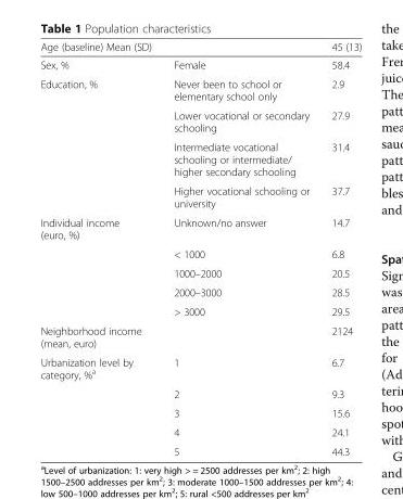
<table><thead><tr><td>Age (baseline) Mean (SD)</td><td></td><td>45 (13)</td></tr></thead><tbody><tr><td>Sex, %</td><td>Female</td><td>58.4</td></tr><tr><td rowspan="4">Education, %</td><td>Never been to school or elementary school only</td><td>2.9</td></tr><tr><td>Lower vocational or secondary schooling</td><td>27.9</td></tr><tr><td>Intermediate vocational schooling or intermediate/ higher secondary schooling</td><td>31.4</td></tr><tr><td>Higher vocational schooling or university</td><td>37.7</td></tr><tr><td rowspan="5">Individual income (euro, %)</td><td>Unknown/no answer</td><td>14.7</td></tr><tr><td>&lt; 1000</td><td>6.8</td></tr><tr><td>1000–2000</td><td>20.5</td></tr><tr><td>2000–3000</td><td>28.5</td></tr><tr><td>&gt; 3000</td><td>29.5</td></tr><tr><td>Neighborhood income (mean, euro)</td><td></td><td>2124</td></tr><tr><td rowspan="5">Urbanization level by category, %<sup>a</sup></td><td>1</td><td>6.7</td></tr><tr><td>2</td><td>9.3</td></tr><tr><td>3</td><td>15.6</td></tr><tr><td>4</td><td>24.1</td></tr><tr><td>5</td><td>44.3</td></tr></tbody></table>